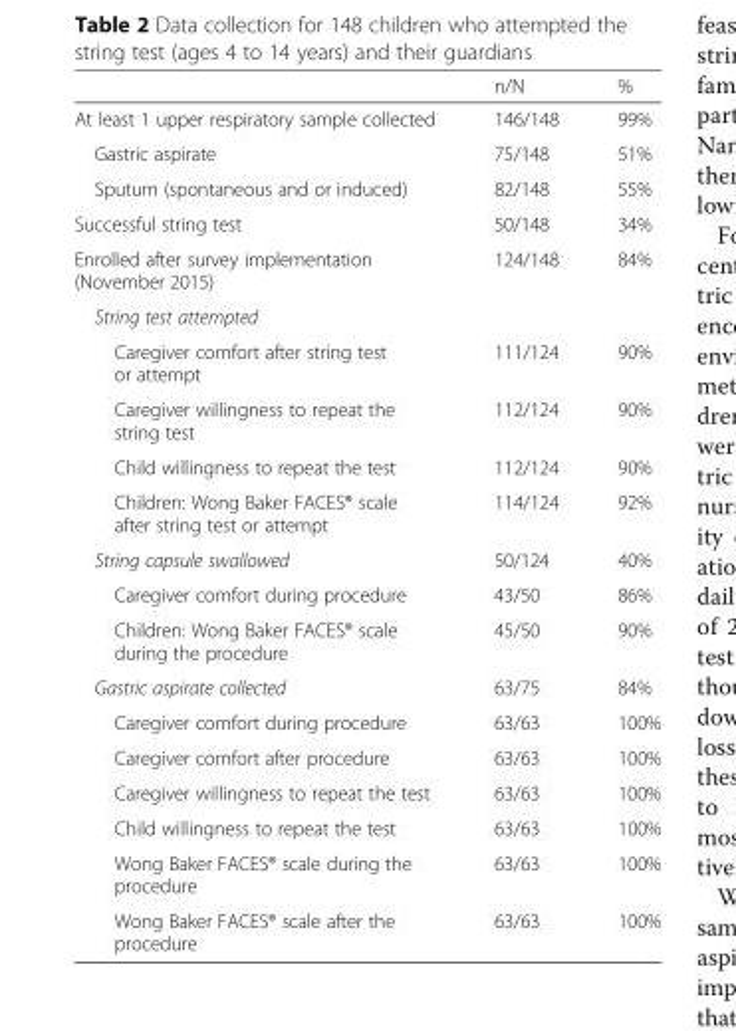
<table><thead><tr><td></td><td>n/N</td><td>%</td></tr></thead><tbody><tr><td>At least 1 upper respiratory sample collected</td><td>146/148</td><td>99%</td></tr><tr><td>Gastric aspirate</td><td>75/148</td><td>51%</td></tr><tr><td>Sputum (spontaneous and or induced)</td><td>82/148</td><td>55%</td></tr><tr><td>Successful string test</td><td>50/148</td><td>34%</td></tr><tr><td>Enrolled after survey implementation (November 2015)</td><td>124/148</td><td>84%</td></tr><tr><td colspan="3">String test attempted</td></tr><tr><td>Caregiver comfort after string test or attempt</td><td>111/124</td><td>90%</td></tr><tr><td>Caregiver willingness to repeat the string test</td><td>112/124</td><td>90%</td></tr><tr><td>Child willingness to repeat the test</td><td>112/124</td><td>90%</td></tr><tr><td>Children: Wong Baker FACES® scale after string test or attempt</td><td>114/124</td><td>92%</td></tr><tr><td>String capsule swallowed</td><td>50/124</td><td>40%</td></tr><tr><td>Caregiver comfort during procedure</td><td>43/50</td><td>86%</td></tr><tr><td>Children: Wong Baker FACES® scale during the procedure</td><td>45/50</td><td>90%</td></tr><tr><td>Gastric aspirate collected</td><td>63/75</td><td>84%</td></tr><tr><td>Caregiver comfort during procedure</td><td>63/63</td><td>100%</td></tr><tr><td>Caregiver comfort after procedure</td><td>63/63</td><td>100%</td></tr><tr><td>Caregiver willingness to repeat the test</td><td>63/63</td><td>100%</td></tr><tr><td>Child willingness to repeat the test</td><td>63/63</td><td>100%</td></tr><tr><td>Wong Baker FACES® scale during the procedure</td><td>63/63</td><td>100%</td></tr><tr><td>Wong Baker FACES® scale after the procedure</td><td>63/63</td><td>100%</td></tr></tbody></table>